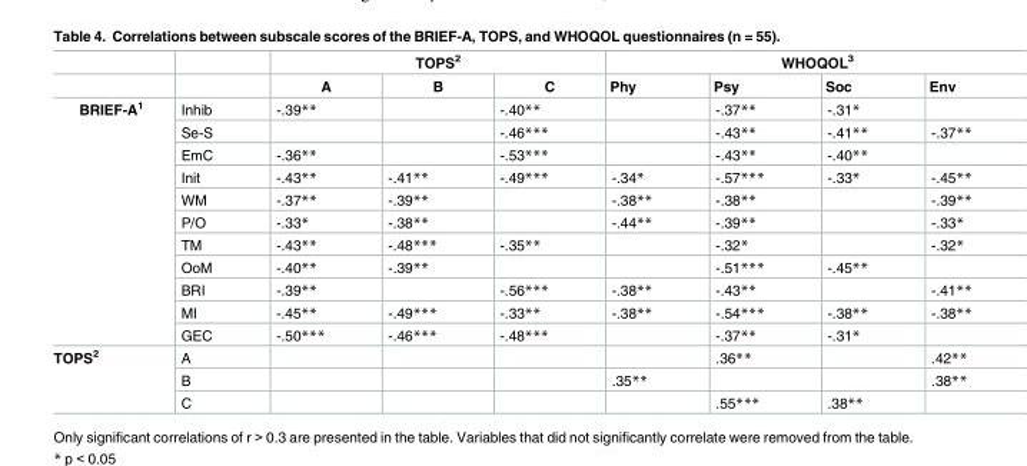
<table><thead><tr><td rowspan="2"></td><td rowspan="2"></td><td colspan="3">TOPS<sup>2</sup></td><td colspan="4">WHOQOL<sup>3</sup></td></tr><tr><td>A</td><td>B</td><td>C</td><td>Phy</td><td>Psy</td><td>Soc</td><td>Env</td></tr></thead><tbody><tr><td rowspan="11">BRIEF-A<sup>1</sup></td><td>Inhib</td><td>-.39**</td><td></td><td>-.40**</td><td></td><td>-.37**</td><td>-.31*</td><td></td></tr><tr><td>Se-S</td><td></td><td></td><td>-.46***</td><td></td><td>-.43**</td><td>-.41**</td><td>-.37**</td></tr><tr><td>EmC</td><td>-.36**</td><td></td><td>-.53***</td><td></td><td>-.43**</td><td>-.40**</td><td></td></tr><tr><td>Init</td><td>-.43**</td><td>-.41**</td><td>-.49***</td><td>-.34*</td><td>-.57***</td><td>-.33*</td><td>-.45**</td></tr><tr><td>WM</td><td>-.37**</td><td>-.39**</td><td></td><td>-.38**</td><td>-.38**</td><td></td><td>-.39**</td></tr><tr><td>P/O</td><td>-.33*</td><td>-.38**</td><td></td><td>-.44**</td><td>-.39**</td><td></td><td>-.33*</td></tr><tr><td>TM</td><td>-.43**</td><td>-.48***</td><td>-.35**</td><td></td><td>-.32*</td><td></td><td>-.32*</td></tr><tr><td>OoM</td><td>-.40**</td><td>-.39**</td><td></td><td></td><td>-.51***</td><td>-.45**</td><td></td></tr><tr><td>BRI</td><td>-.39**</td><td></td><td>-.56***</td><td>-.38**</td><td>-.43**</td><td></td><td>-.41**</td></tr><tr><td>MI</td><td>-.45**</td><td>-.49***</td><td>-.33**</td><td>-.38**</td><td>-.54***</td><td>-.38**</td><td>-.38**</td></tr><tr><td>GEC</td><td>-.50***</td><td>-.46***</td><td>-.48***</td><td></td><td>-.37**</td><td>-.31*</td><td></td></tr><tr><td rowspan="3">TOPS<sup>2</sup></td><td>A</td><td></td><td></td><td></td><td></td><td>.36**</td><td></td><td>.42**</td></tr><tr><td>B</td><td></td><td></td><td></td><td>.35**</td><td></td><td></td><td>.38**</td></tr><tr><td>C</td><td></td><td></td><td></td><td></td><td>.55***</td><td>.38**</td><td></td></tr></tbody></table>